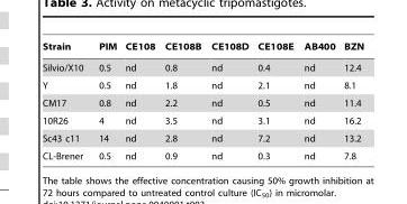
<table><thead><tr><td>Strain</td><td>PIM</td><td>CE108</td><td>CE108B</td><td>CE108D</td><td>CE108E</td><td>AB400</td><td>BZN</td></tr></thead><tbody><tr><td>Silvio/X10</td><td>0.5</td><td>nd</td><td>0.8</td><td>nd</td><td>0.4</td><td>nd</td><td>12.4</td></tr><tr><td>Y</td><td>0.5</td><td>nd</td><td>1.8</td><td>nd</td><td>2.1</td><td>nd</td><td>8.1</td></tr><tr><td>CM17</td><td>0.8</td><td>nd</td><td>2.2</td><td>nd</td><td>0.5</td><td>nd</td><td>11.4</td></tr><tr><td>10R26</td><td>4</td><td>nd</td><td>3.5</td><td>nd</td><td>3.1</td><td>nd</td><td>16.2</td></tr><tr><td>Sc43 c11</td><td>14</td><td>nd</td><td>2.8</td><td>nd</td><td>7.2</td><td>nd</td><td>13.2</td></tr><tr><td>CL-Brener</td><td>0.5</td><td>nd</td><td>0.9</td><td>nd</td><td>0.3</td><td>nd</td><td>7.8</td></tr></tbody></table>